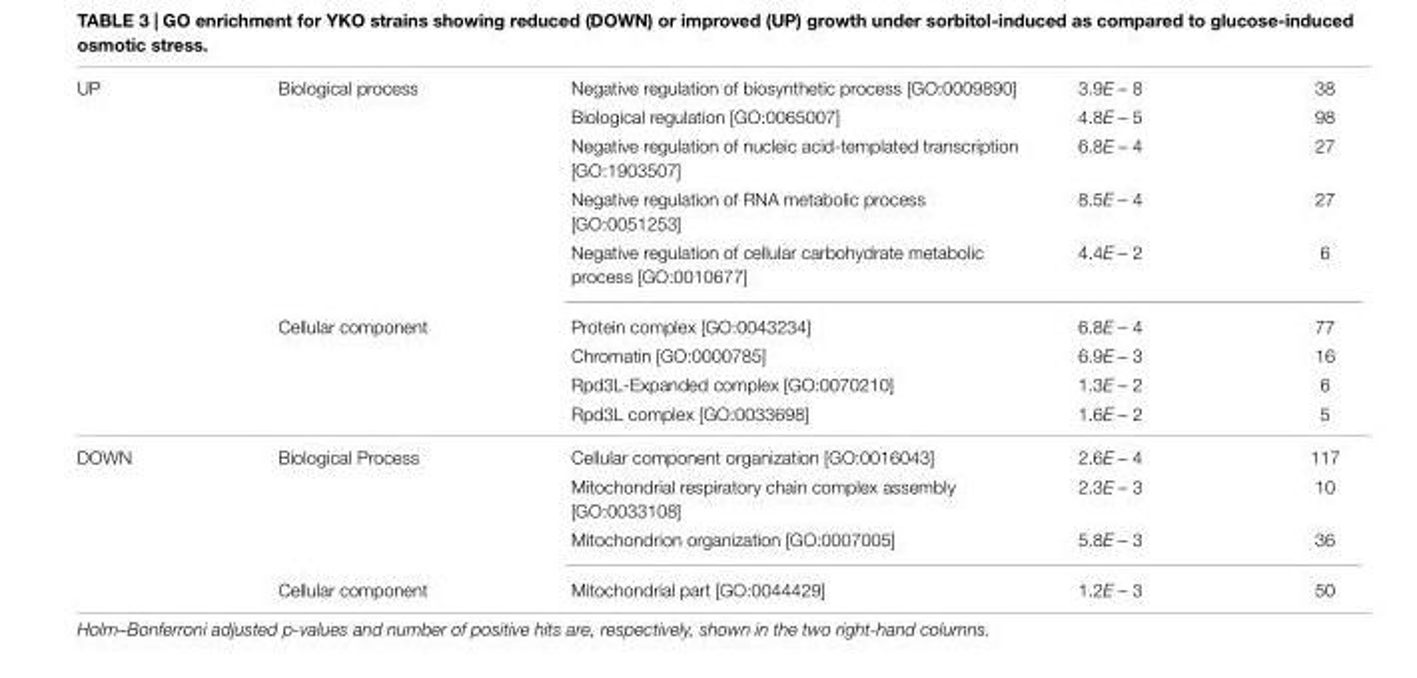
<table><tbody><tr><td rowspan="9">UP</td><td>Biological process</td><td>Negative regulation of biosynthetic process [GO:0009890]</td><td>3.9E – 8</td><td>38</td></tr><tr><td></td><td>Biological regulation [GO:0065007]</td><td>4.8E – 5</td><td>98</td></tr><tr><td></td><td>Negative regulation of nucleic acid-templated transcription [GO:1903507]</td><td>6.8E – 4</td><td>27</td></tr><tr><td></td><td>Negative regulation of RNA metabolic process [GO:0051253]</td><td>8.5E – 4</td><td>27</td></tr><tr><td></td><td>Negative regulation of cellular carbohydrate metabolic process [GO:0010677]</td><td>4.4E – 2</td><td>6</td></tr><tr><td>Cellular component</td><td>Protein complex [GO:0043234]</td><td>6.8E – 4</td><td>77</td></tr><tr><td></td><td>Chromatin [GO:0000785]</td><td>6.9E – 3</td><td>16</td></tr><tr><td></td><td>Rpd3L-Expanded complex [GO:0070210]</td><td>1.3E – 2</td><td>6</td></tr><tr><td></td><td>Rpd3L complex [GO:0033698]</td><td>1.6E – 2</td><td>5</td></tr><tr><td rowspan="4">DOWN</td><td>Biological Process</td><td>Cellular component organization [GO:0016043]</td><td>2.6E – 4</td><td>117</td></tr><tr><td></td><td>Mitochondrial respiratory chain complex assembly [GO:0033108]</td><td>2.3E – 3</td><td>10</td></tr><tr><td></td><td>Mitochondrion organization [GO:0007005]</td><td>5.8E – 3</td><td>36</td></tr><tr><td>Cellular component</td><td>Mitochondrial part [GO:0044429]</td><td>1.2E – 3</td><td>50</td></tr></tbody></table>